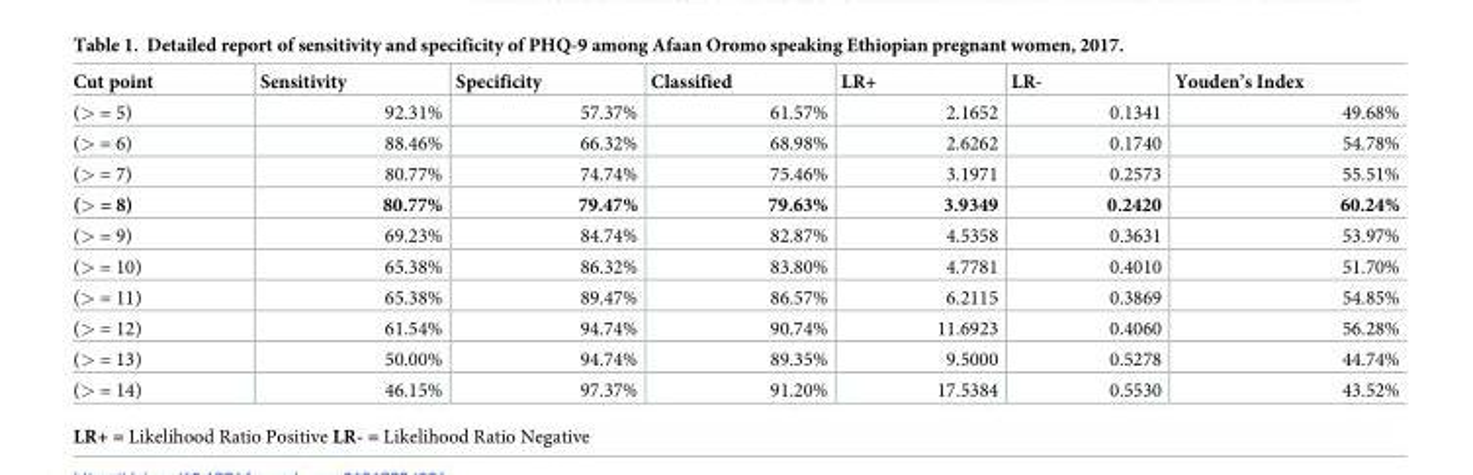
<table><thead><tr><td>Cut point</td><td>Sensitivity</td><td>Specificity</td><td>Classified</td><td>LR+</td><td>LR-</td><td>Youden’s Index</td></tr></thead><tbody><tr><td>(&gt; = 5)</td><td>92.31%</td><td>57.37%</td><td>61.57%</td><td>2.1652</td><td>0.1341</td><td>49.68%</td></tr><tr><td>(&gt; = 6)</td><td>88.46%</td><td>66.32%</td><td>68.98%</td><td>2.6262</td><td>0.1740</td><td>54.78%</td></tr><tr><td>(&gt; = 7)</td><td>80.77%</td><td>74.74%</td><td>75.46%</td><td>3.1971</td><td>0.2573</td><td>55.51%</td></tr><tr><td>(&gt; = 8)</td><td>80.77%</td><td>79.47%</td><td>79.63%</td><td>3.9349</td><td>0.2420</td><td>60.24%</td></tr><tr><td>(&gt; = 9)</td><td>69.23%</td><td>84.74%</td><td>82.87%</td><td>4.5358</td><td>0.3631</td><td>53.97%</td></tr><tr><td>(&gt; = 10)</td><td>65.38%</td><td>86.32%</td><td>83.80%</td><td>4.7781</td><td>0.4010</td><td>51.70%</td></tr><tr><td>(&gt; = 11)</td><td>65.38%</td><td>89.47%</td><td>86.57%</td><td>6.2115</td><td>0.3869</td><td>54.85%</td></tr><tr><td>(&gt; = 12)</td><td>61.54%</td><td>94.74%</td><td>90.74%</td><td>11.6923</td><td>0.4060</td><td>56.28%</td></tr><tr><td>(&gt; = 13)</td><td>50.00%</td><td>94.74%</td><td>89.35%</td><td>9.5000</td><td>0.5278</td><td>44.74%</td></tr><tr><td>(&gt; = 14)</td><td>46.15%</td><td>97.37%</td><td>91.20%</td><td>17.5384</td><td>0.5530</td><td>43.52%</td></tr></tbody></table>